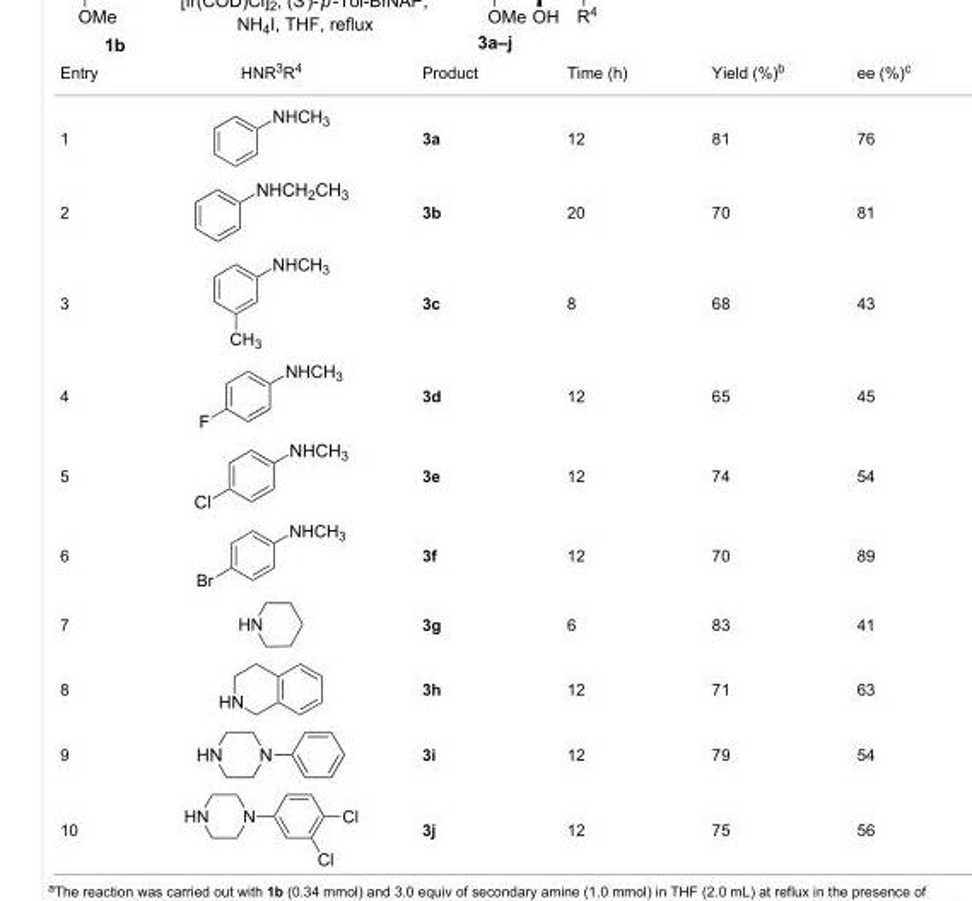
<table><tbody><tr><td>Entry</td><td>HNR<sup>3</sup>R<sup>4</sup></td><td>Product</td><td>Time (h)</td><td>Yield (%)<sup>b</sup></td><td>ee (%)<sup>c</sup></td></tr><tr><td>1</td><td></td><td>3a</td><td>12</td><td>81</td><td>76</td></tr><tr><td>2</td><td></td><td>3b</td><td>20</td><td>70</td><td>81</td></tr><tr><td>3</td><td></td><td>3c</td><td>8</td><td>68</td><td>43</td></tr><tr><td>4</td><td></td><td>3d</td><td>12</td><td>65</td><td>45</td></tr><tr><td>5</td><td></td><td>3e</td><td>12</td><td>74</td><td>54</td></tr><tr><td>6</td><td></td><td>3f</td><td>12</td><td>70</td><td>89</td></tr><tr><td>7</td><td></td><td>3g</td><td>6</td><td>83</td><td>41</td></tr><tr><td>8</td><td></td><td>3h</td><td>12</td><td>71</td><td>63</td></tr><tr><td>9</td><td></td><td>3i</td><td>12</td><td>79</td><td>54</td></tr><tr><td>10</td><td></td><td>3j</td><td>12</td><td>75</td><td>56</td></tr></tbody></table>